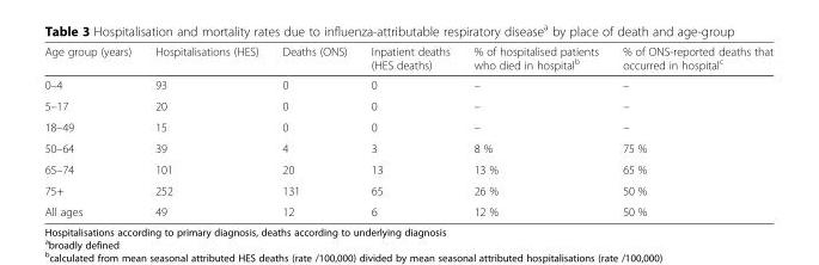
<table><thead><tr><td>Age group (years)</td><td>Hospitalisations (HES)</td><td>Deaths (ONS)</td><td>Inpatient deaths (HES deaths)</td><td>% of hospitalised patients who died in hospital<sup>b</sup></td><td>% of ONS-reported deaths that occurred in hospital<sup>c</sup></td></tr></thead><tbody><tr><td>0–4</td><td>93</td><td>0</td><td>0</td><td>–</td><td>–</td></tr><tr><td>5–17</td><td>20</td><td>0</td><td>0</td><td>–</td><td>–</td></tr><tr><td>18–49</td><td>15</td><td>0</td><td>0</td><td>–</td><td>–</td></tr><tr><td>50–64</td><td>39</td><td>4</td><td>3</td><td>8 %</td><td>75 %</td></tr><tr><td>65–74</td><td>101</td><td>20</td><td>13</td><td>13 %</td><td>65 %</td></tr><tr><td>75+</td><td>252</td><td>131</td><td>65</td><td>26 %</td><td>50 %</td></tr><tr><td>All ages</td><td>49</td><td>12</td><td>6</td><td>12 %</td><td>50 %</td></tr></tbody></table>